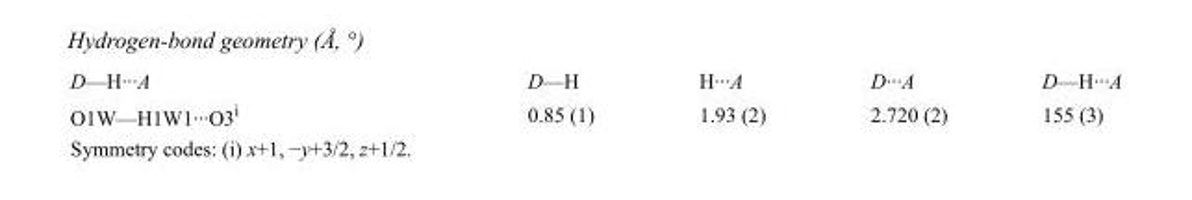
<table><tbody><tr><td>D—H···A</td><td>D—H</td><td>H···A</td><td>D···A</td><td>D—H···A</td></tr><tr><td>O1W—H1W1···O3<sup>i</sup></td><td>0.85 (1)</td><td>1.93 (2)</td><td>2.720 (2)</td><td>155 (3)</td></tr></tbody></table>